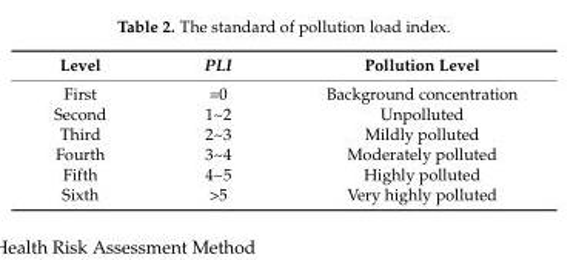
<table><thead><tr><td>Level</td><td>PLI</td><td>Pollution Level</td></tr></thead><tbody><tr><td>First</td><td>=0</td><td>Background concentration</td></tr><tr><td>Second</td><td>1~2</td><td>Unpolluted</td></tr><tr><td>Third</td><td>2~3</td><td>Mildly polluted</td></tr><tr><td>Fourth</td><td>3~4</td><td>Moderately polluted</td></tr><tr><td>Fifth</td><td>4~5</td><td>Highly polluted</td></tr><tr><td>Sixth</td><td>&gt;5</td><td>Very highly polluted</td></tr></tbody></table>